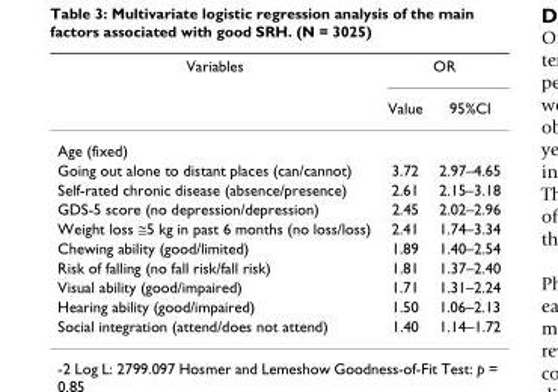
<table><thead><tr><td rowspan="2">Variables</td><td colspan="2">OR</td></tr><tr><td>Value</td><td>95%CI</td></tr></thead><tbody><tr><td colspan="3">Age (fixed)</td></tr><tr><td>Going out alone to distant places (can/cannot)</td><td>3.72</td><td>2.97–4.65</td></tr><tr><td>Self-rated chronic disease (absence/presence)</td><td>2.61</td><td>2.15–3.18</td></tr><tr><td>GDS-5 score (no depression/depression)</td><td>2.45</td><td>2.02–2.96</td></tr><tr><td>Weight loss ≅5 kg in past 6 months (no loss/loss)</td><td>2.41</td><td>1.74–3.34</td></tr><tr><td>Chewing ability (good/limited)</td><td>1.89</td><td>1.40–2.54</td></tr><tr><td>Risk of falling (no fall risk/fall risk)</td><td>1.81</td><td>1.37–2.40</td></tr><tr><td>Visual ability (good/impaired)</td><td>1.71</td><td>1.31–2.24</td></tr><tr><td>Hearing ability (good/impaired)</td><td>1.50</td><td>1.06–2.13</td></tr><tr><td>Social integration (attend/does not attend)</td><td>1.40</td><td>1.14–1.72</td></tr></tbody></table>